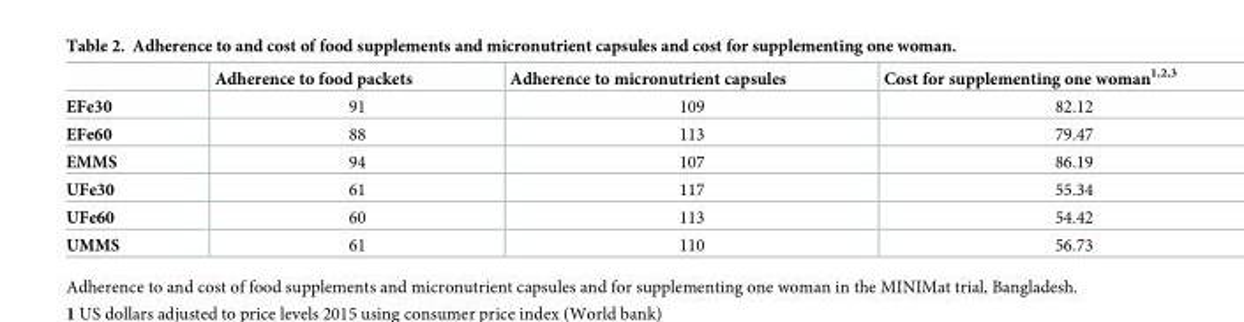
<table><thead><tr><td></td><td>Adherence to food packets</td><td>Adherence to micronutrient capsules</td><td>Cost for supplementing one woman<sup>1,2,3</sup></td></tr></thead><tbody><tr><td>EFe30</td><td>91</td><td>109</td><td>82.12</td></tr><tr><td>EFe60</td><td>88</td><td>113</td><td>79.47</td></tr><tr><td>EMMS</td><td>94</td><td>107</td><td>86.19</td></tr><tr><td>UFe30</td><td>61</td><td>117</td><td>55.34</td></tr><tr><td>UFe60</td><td>60</td><td>113</td><td>54.42</td></tr><tr><td>UMMS</td><td>61</td><td>110</td><td>56.73</td></tr></tbody></table>